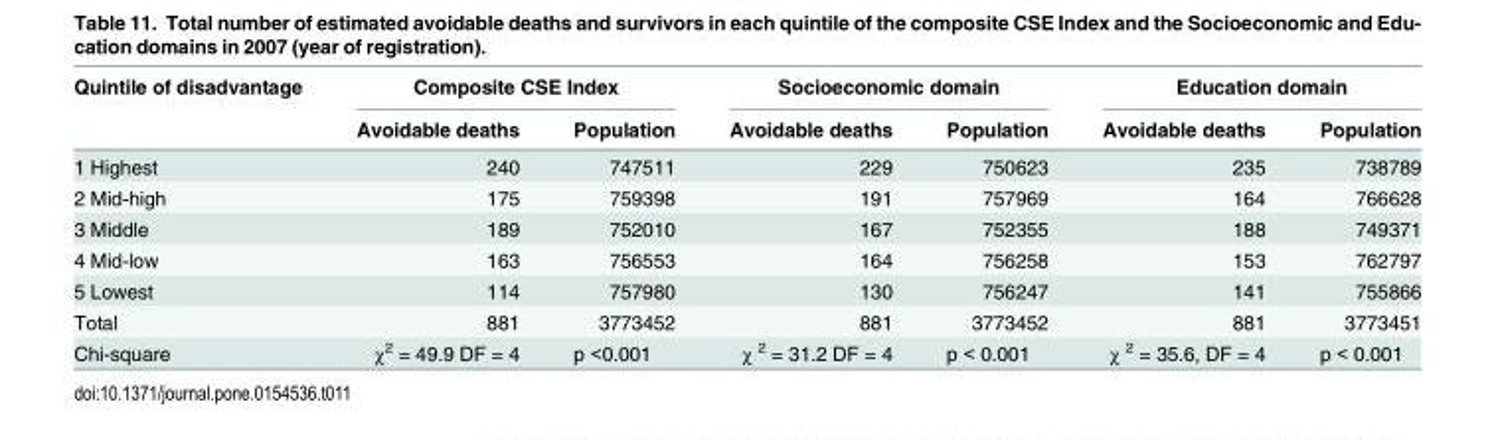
<table><thead><tr><td rowspan="2">Quintile of disadvantage</td><td colspan="2">Composite CSE Index</td><td colspan="2">Socioeconomic domain</td><td colspan="2">Education domain</td></tr><tr><td>Avoidable deaths</td><td>Population</td><td>Avoidable deaths</td><td>Population</td><td>Avoidable deaths</td><td>Population</td></tr></thead><tbody><tr><td>1 Highest</td><td>240</td><td>747511</td><td>229</td><td>750623</td><td>235</td><td>738789</td></tr><tr><td>2 Mid-high</td><td>175</td><td>759398</td><td>191</td><td>757969</td><td>164</td><td>766628</td></tr><tr><td>3 Middle</td><td>189</td><td>752010</td><td>167</td><td>752355</td><td>188</td><td>749371</td></tr><tr><td>4 Mid-low</td><td>163</td><td>756553</td><td>164</td><td>756258</td><td>153</td><td>762797</td></tr><tr><td>5 Lowest</td><td>114</td><td>757980</td><td>130</td><td>756247</td><td>141</td><td>755866</td></tr><tr><td>Total</td><td>881</td><td>3773452</td><td>881</td><td>3773452</td><td>881</td><td>3773451</td></tr><tr><td>Chi-square</td><td>χ<sup>2</sup> = 49.9 DF = 4</td><td>p &lt;0.001</td><td>χ <sup>2</sup> = 31.2 DF = 4</td><td>p &lt; 0.001</td><td>χ <sup>2</sup> = 35.6, DF = 4</td><td>p &lt; 0.001</td></tr></tbody></table>